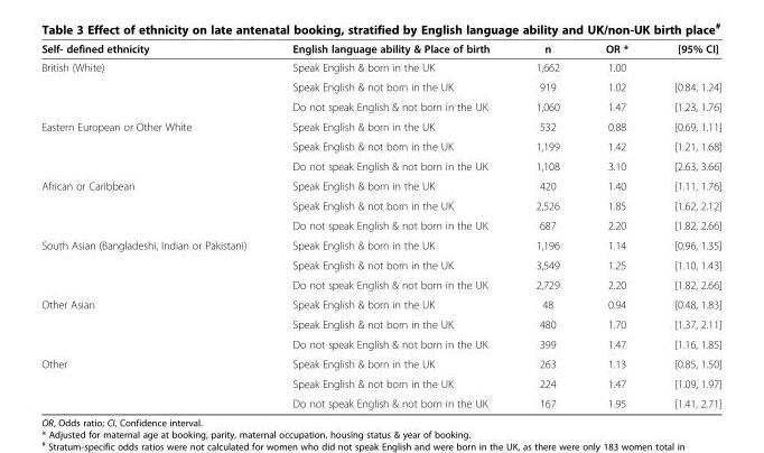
<table><thead><tr><td>Self- defined ethnicity</td><td>English language ability &amp; Place of birth</td><td>n</td><td>OR *</td><td>[95% CI]</td></tr></thead><tbody><tr><td rowspan="3">British (White)</td><td>Speak English &amp; born in the UK</td><td>1,662</td><td>1.00</td><td></td></tr><tr><td>Speak English &amp; not born in the UK</td><td>919</td><td>1.02</td><td>[0.84, 1.24]</td></tr><tr><td>Do not speak English &amp; not born in the UK</td><td>1,060</td><td>1.47</td><td>[1.23, 1.76]</td></tr><tr><td rowspan="3">Eastern European or Other White</td><td>Speak English &amp; born in the UK</td><td>532</td><td>0.88</td><td>[0.69, 1.11]</td></tr><tr><td>Speak English &amp; not born in the UK</td><td>1,199</td><td>1.42</td><td>[1.21, 1.68]</td></tr><tr><td>Do not speak English &amp; not born in the UK</td><td>1,108</td><td>3.10</td><td>[2.63, 3.66]</td></tr><tr><td rowspan="3">African or Caribbean</td><td>Speak English &amp; born in the UK</td><td>420</td><td>1.40</td><td>[1.11, 1.76]</td></tr><tr><td>Speak English &amp; not born in the UK</td><td>2,526</td><td>1.85</td><td>[1.62, 2.12]</td></tr><tr><td>Do not speak English &amp; not born in the UK</td><td>687</td><td>2.20</td><td>[1.82, 2.66]</td></tr><tr><td rowspan="3">South Asian (Bangladeshi, Indian or Pakistani)</td><td>Speak English &amp; born in the UK</td><td>1,196</td><td>1.14</td><td>[0.96, 1.35]</td></tr><tr><td>Speak English &amp; not born in the UK</td><td>3,549</td><td>1.25</td><td>[1.10, 1.43]</td></tr><tr><td>Do not speak English &amp; not born in the UK</td><td>2,729</td><td>2.20</td><td>[1.82, 2.66]</td></tr><tr><td rowspan="3">Other Asian</td><td>Speak English &amp; born in the UK</td><td>48</td><td>0.94</td><td>[0.48, 1.83]</td></tr><tr><td>Speak English &amp; not born in the UK</td><td>480</td><td>1.70</td><td>[1.37, 2.11]</td></tr><tr><td>Do not speak English &amp; not born in the UK</td><td>399</td><td>1.47</td><td>[1.16, 1.85]</td></tr><tr><td rowspan="3">Other</td><td>Speak English &amp; born in the UK</td><td>263</td><td>1.13</td><td>[0.85, 1.50]</td></tr><tr><td>Speak English &amp; not born in the UK</td><td>224</td><td>1.47</td><td>[1.09, 1.97]</td></tr><tr><td>Do not speak English &amp; not born in the UK</td><td>167</td><td>1.95</td><td>[1.41, 2.71]</td></tr></tbody></table>